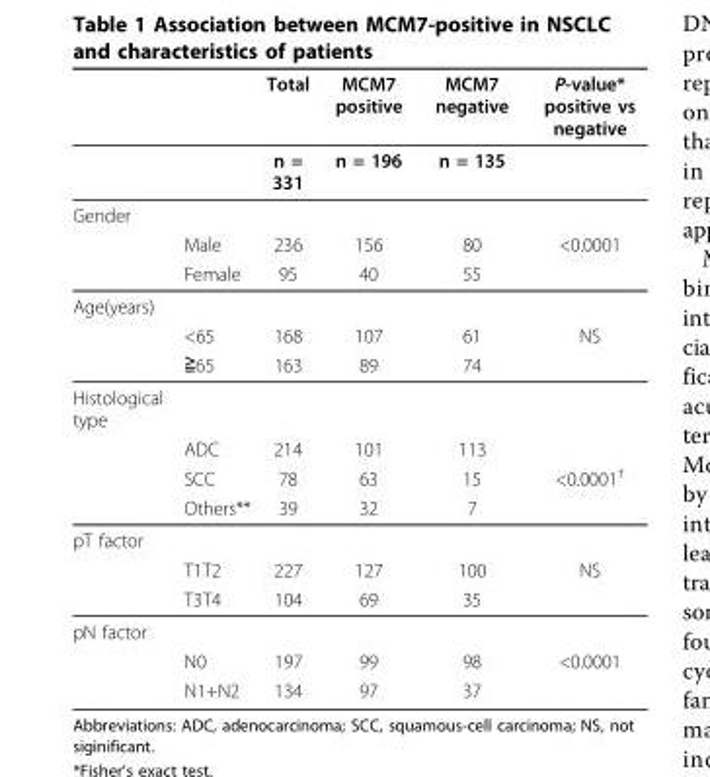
<table><thead><tr><td></td><td></td><td>Total</td><td>MCM7 positive</td><td>MCM7 negative</td><td>P-value* positive vs negative</td></tr></thead><tbody><tr><td></td><td></td><td>n = 331</td><td>n = 196</td><td>n = 135</td><td></td></tr><tr><td colspan="6">Gender</td></tr><tr><td></td><td>Male</td><td>236</td><td>156</td><td>80</td><td>&lt;0.0001</td></tr><tr><td></td><td>Female</td><td>95</td><td>40</td><td>55</td><td></td></tr><tr><td colspan="6">Age(years)</td></tr><tr><td></td><td>&lt;65</td><td>168</td><td>107</td><td>61</td><td>NS</td></tr><tr><td></td><td>≧65</td><td>163</td><td>89</td><td>74</td><td></td></tr><tr><td colspan="6">Histological type</td></tr><tr><td></td><td>ADC</td><td>214</td><td>101</td><td>113</td><td></td></tr><tr><td></td><td>SCC</td><td>78</td><td>63</td><td>15</td><td>&lt;0.0001<sup>†</sup></td></tr><tr><td></td><td>Others**</td><td>39</td><td>32</td><td>7</td><td></td></tr><tr><td colspan="6">pT factor</td></tr><tr><td></td><td>T1T2</td><td>227</td><td>127</td><td>100</td><td>NS</td></tr><tr><td></td><td>T3T4</td><td>104</td><td>69</td><td>35</td><td></td></tr><tr><td colspan="6">pN factor</td></tr><tr><td></td><td>N0</td><td>197</td><td>99</td><td>98</td><td>&lt;0.0001</td></tr><tr><td></td><td>N1+N2</td><td>134</td><td>97</td><td>37</td><td></td></tr></tbody></table>